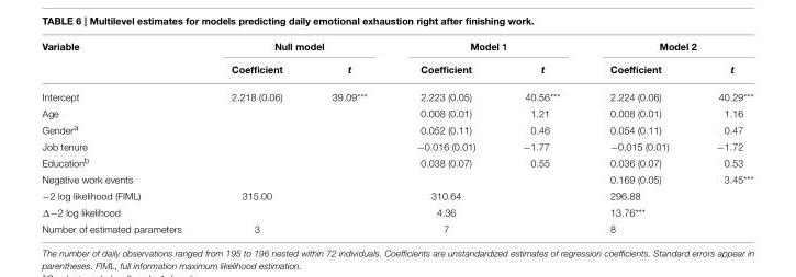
<table><thead><tr><td rowspan="2">Variable</td><td colspan="2">Null model</td><td colspan="2">Model 1</td><td colspan="2">Model 2</td></tr><tr><td>Coefficient</td><td>t</td><td>Coefficient</td><td>t</td><td>Coefficient</td><td>t</td></tr></thead><tbody><tr><td>Intercept</td><td>2.218 (0.06)</td><td>39.09***</td><td>2.223 (0.05)</td><td>40.56***</td><td>2.224 (0.06)</td><td>40.29***</td></tr><tr><td>Age</td><td></td><td></td><td>0.008 (0.01)</td><td>1.21</td><td>0.008 (0.01)</td><td>1.16</td></tr><tr><td>Gender<sup>a</sup></td><td></td><td></td><td>0.052 (0.11)</td><td>0.46</td><td>0.054 (0.11)</td><td>0.47</td></tr><tr><td>Job tenure</td><td></td><td></td><td>−0.016 (0.01)</td><td>−1.77</td><td>−0.015 (0.01)</td><td>−1.72</td></tr><tr><td>Education<sup>b</sup></td><td></td><td></td><td>0.038 (0.07)</td><td>0.55</td><td>0.036 (0.07)</td><td>0.53</td></tr><tr><td>Negative work events</td><td></td><td></td><td></td><td></td><td>0.169 (0.05)</td><td>3.45***</td></tr><tr><td>−2 log likelihood (FIML)</td><td>315.00</td><td></td><td>310.64</td><td></td><td>296.88</td><td></td></tr><tr><td>Δ−2 log likelihood</td><td></td><td></td><td>4.36</td><td></td><td>13.76***</td><td></td></tr><tr><td>Number of estimated parameters</td><td>3</td><td></td><td>7</td><td></td><td>8</td><td></td></tr></tbody></table>